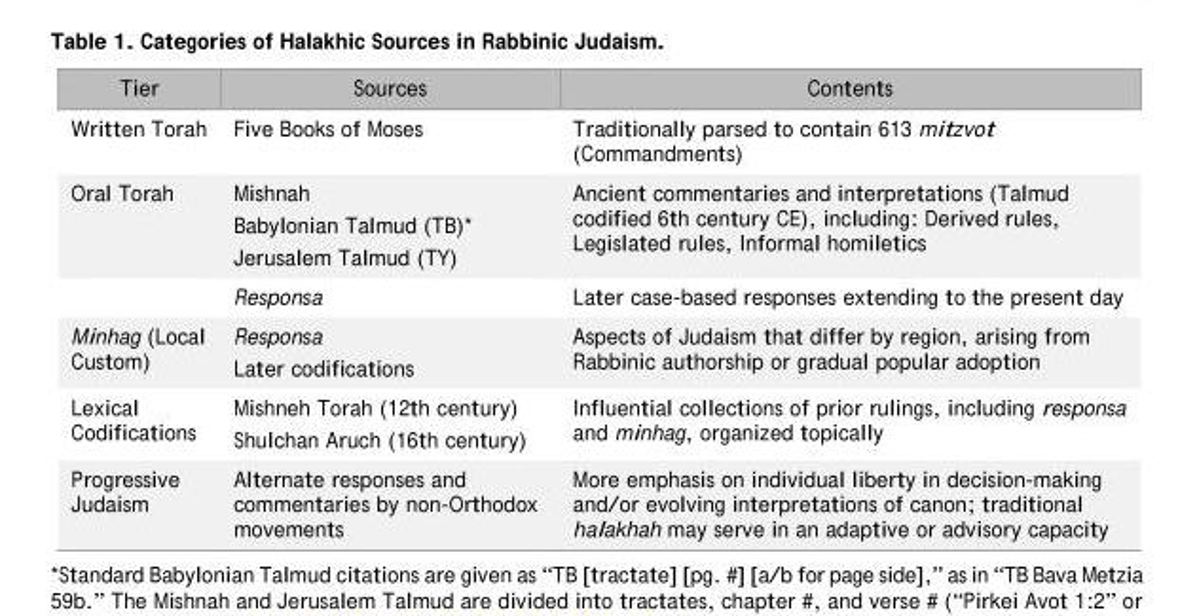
<table><thead><tr><td>Tier</td><td>Sources</td><td>Contents</td></tr></thead><tbody><tr><td>Written Torah</td><td>Five Books of Moses</td><td>Traditionally parsed to contain 613 mitzvot (Commandments)</td></tr><tr><td rowspan="2">Oral Torah</td><td>Mishnah Babylonian Talmud (TB)* Jerusalem Talmud (TY)</td><td>Ancient commentaries and interpretations (Talmud codified 6th century CE), including: Derived rules, Legislated rules, Informal homiletics</td></tr><tr><td>Responsa</td><td>Later case-based responses extending to the present day</td></tr><tr><td>Minhag (Local Custom)</td><td>Responsa Later codifications</td><td>Aspects of Judaism that differ by region, arising from Rabbinic authorship or gradual popular adoption</td></tr><tr><td>Lexical Codifications</td><td>Mishneh Torah (12th century) Shulchan Aruch (16th century)</td><td>Influential collections of prior rulings, including responsa and minhag, organized topically</td></tr><tr><td>Progressive Judaism</td><td>Alternate responses and commentaries by non-Orthodox movements</td><td>More emphasis on individual liberty in decision-making and/or evolving interpretations of canon; traditional halakhah may serve in an adaptive or advisory capacity</td></tr></tbody></table>